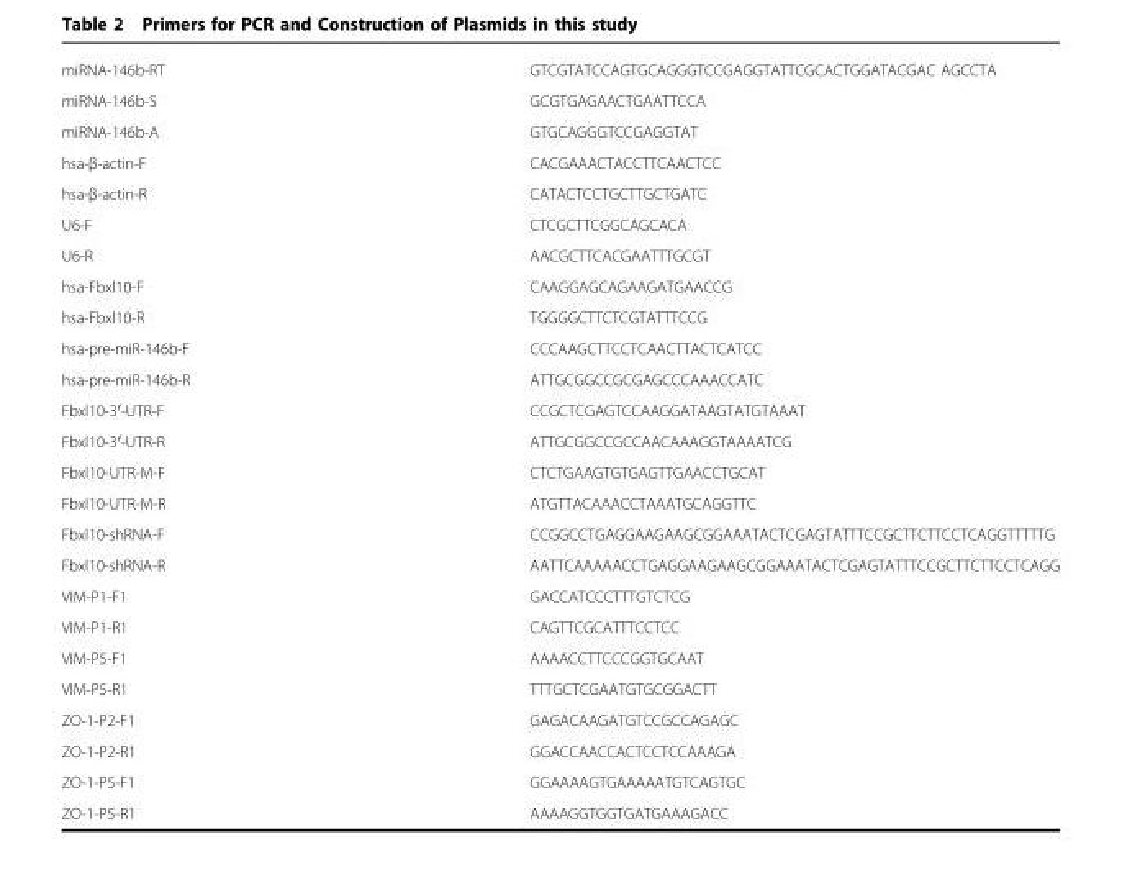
<table><tbody><tr><td>miRNA-146b-RT</td><td>GTCGTATCCAGTGCAGGGTCCGAGGTATTCGCACTGGATACGAC AGCCTA</td></tr><tr><td>miRNA-146b-S</td><td>GCGTGAGAACTGAATTCCA</td></tr><tr><td>miRNA-146b-A</td><td>GTGCAGGGTCCGAGGTAT</td></tr><tr><td>hsa-β-actin-F</td><td>CACGAAACTACCTTCAACTCC</td></tr><tr><td>hsa-β-actin-R</td><td>CATACTCCTGCTTGCTGATC</td></tr><tr><td>U6-F</td><td>CTCGCTTCGGCAGCACA</td></tr><tr><td>U6-R</td><td>AACGCTTCACGAATTTGCGT</td></tr><tr><td>hsa-Fbxl10-F</td><td>CAAGGAGCAGAAGATGAACCG</td></tr><tr><td>hsa-Fbxl10-R</td><td>TGGGGCTTCTCGTATTTCCG</td></tr><tr><td>hsa-pre-miR-146b-F</td><td>CCCAAGCTTCCTCAACTTACTCATCC</td></tr><tr><td>hsa-pre-miR-146b-R</td><td>ATTGCGGCCGCGAGCCCAAACCATC</td></tr><tr><td>Fbxl10-3′-UTR-F</td><td>CCGCTCGAGTCCAAGGATAAGTATGTAAAT</td></tr><tr><td>Fbxl10-3′-UTR-R</td><td>ATTGCGGCCGCCAACAAAGGTAAAATCG</td></tr><tr><td>Fbxl10-UTR-M-F</td><td>CTCTGAAGTGTGAGTTGAACCTGCAT</td></tr><tr><td>Fbxl10-UTR-M-R</td><td>ATGTTACAAACCTAAATGCAGGTTC</td></tr><tr><td>Fbxl10-shRNA-F</td><td>CCGGCCTGAGGAAGAAGCGGAAATACTCGAGTATTTCCGCTTCTTCCTCAGGTTTTTG</td></tr><tr><td>Fbxl10-shRNA-R</td><td>AATTCAAAAACCTGAGGAAGAAGCGGAAATACTCGAGTATTTCCGCTTCTTCCTCAGG</td></tr><tr><td>VIM-P1-F1</td><td>GACCATCCCTTTGTCTCG</td></tr><tr><td>VIM-P1-R1</td><td>CAGTTCGCATTTCCTCC</td></tr><tr><td>VIM-P5-F1</td><td>AAAACCTTCCCGGTGCAAT</td></tr><tr><td>VIM-P5-R1</td><td>TTTGCTCGAATGTGCGGACTT</td></tr><tr><td>ZO-1-P2-F1</td><td>GAGACAAGATGTCCGCCAGAGC</td></tr><tr><td>ZO-1-P2-R1</td><td>GGACCAACCACTCCTCCAAAGA</td></tr><tr><td>ZO-1-P5-F1</td><td>GGAAAAGTGAAAAATGTCAGTGC</td></tr><tr><td>ZO-1-P5-R1</td><td>AAAAGGTGGTGATGAAAGACC</td></tr></tbody></table>